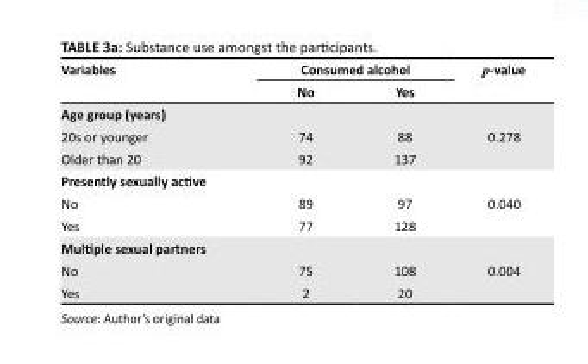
<table><thead><tr><td rowspan="2">Variables</td><td colspan="2">Consumed alcohol</td><td rowspan="2">p-value</td></tr><tr><td>No</td><td>Yes</td></tr></thead><tbody><tr><td colspan="4">Age group (years)</td></tr><tr><td>20s or younger</td><td>74</td><td>88</td><td>0.278</td></tr><tr><td>Older than 20</td><td>92</td><td>137</td><td></td></tr><tr><td colspan="4">Presently sexually active</td></tr><tr><td>No</td><td>89</td><td>97</td><td>0.040</td></tr><tr><td>Yes</td><td>77</td><td>128</td><td></td></tr><tr><td colspan="4">Multiple sexual partners</td></tr><tr><td>No</td><td>75</td><td>108</td><td>0.004</td></tr><tr><td>Yes</td><td>2</td><td>20</td><td></td></tr></tbody></table>